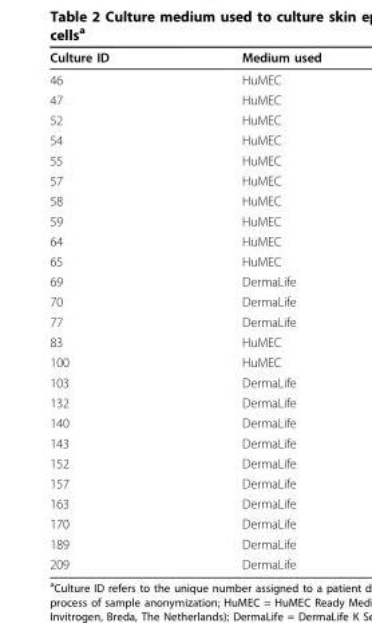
<table><thead><tr><td>Culture ID</td><td>Medium used</td></tr></thead><tbody><tr><td>46</td><td>HuMEC</td></tr><tr><td>47</td><td>HuMEC</td></tr><tr><td>52</td><td>HuMEC</td></tr><tr><td>54</td><td>HuMEC</td></tr><tr><td>55</td><td>HuMEC</td></tr><tr><td>57</td><td>HuMEC</td></tr><tr><td>58</td><td>HuMEC</td></tr><tr><td>59</td><td>HuMEC</td></tr><tr><td>64</td><td>HuMEC</td></tr><tr><td>65</td><td>HuMEC</td></tr><tr><td>69</td><td>DermaLife</td></tr><tr><td>70</td><td>DermaLife</td></tr><tr><td>77</td><td>DermaLife</td></tr><tr><td>83</td><td>HuMEC</td></tr><tr><td>100</td><td>HuMEC</td></tr><tr><td>103</td><td>DermaLife</td></tr><tr><td>132</td><td>DermaLife</td></tr><tr><td>140</td><td>DermaLife</td></tr><tr><td>143</td><td>DermaLife</td></tr><tr><td>152</td><td>DermaLife</td></tr><tr><td>157</td><td>DermaLife</td></tr><tr><td>163</td><td>DermaLife</td></tr><tr><td>170</td><td>DermaLife</td></tr><tr><td>189</td><td>DermaLife</td></tr><tr><td>209</td><td>DermaLife</td></tr></tbody></table>